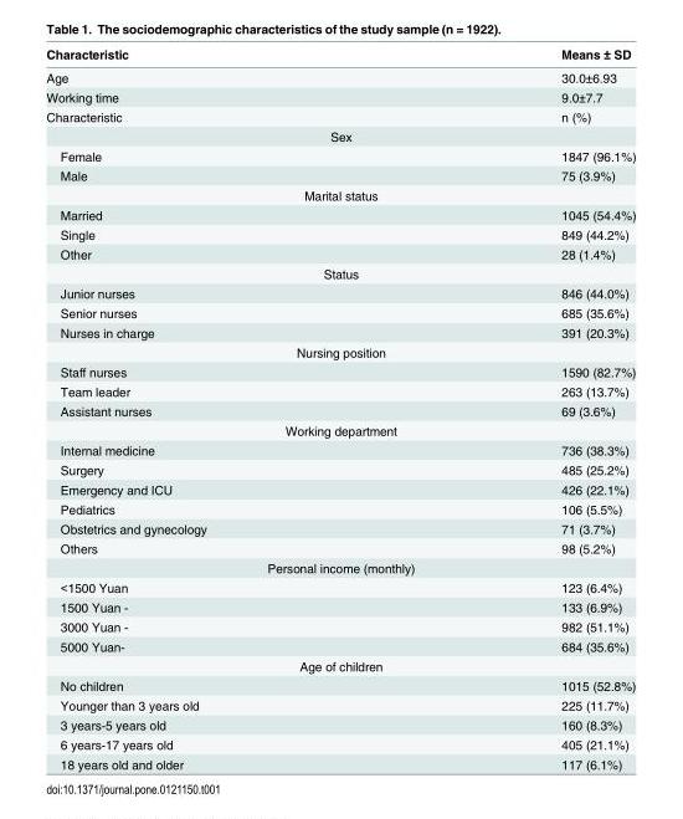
<table><thead><tr><td>Characteristic</td><td>Means ± SD</td></tr></thead><tbody><tr><td>Age</td><td>30.0±6.93</td></tr><tr><td>Working time</td><td>9.0±7.7</td></tr><tr><td>Characteristic</td><td>n (%)</td></tr><tr><td colspan="2">Sex</td></tr><tr><td>Female</td><td>1847 (96.1%)</td></tr><tr><td>Male</td><td>75 (3.9%)</td></tr><tr><td colspan="2">Marital status</td></tr><tr><td>Married</td><td>1045 (54.4%)</td></tr><tr><td>Single</td><td>849 (44.2%)</td></tr><tr><td>Other</td><td>28 (1.4%)</td></tr><tr><td colspan="2">Status</td></tr><tr><td>Junior nurses</td><td>846 (44.0%)</td></tr><tr><td>Senior nurses</td><td>685 (35.6%)</td></tr><tr><td>Nurses in charge</td><td>391 (20.3%)</td></tr><tr><td colspan="2">Nursing position</td></tr><tr><td>Staff nurses</td><td>1590 (82.7%)</td></tr><tr><td>Team leader</td><td>263 (13.7%)</td></tr><tr><td>Assistant nurses</td><td>69 (3.6%)</td></tr><tr><td colspan="2">Working department</td></tr><tr><td>Internal medicine</td><td>736 (38.3%)</td></tr><tr><td>Surgery</td><td>485 (25.2%)</td></tr><tr><td>Emergency and ICU</td><td>426 (22.1%)</td></tr><tr><td>Pediatrics</td><td>106 (5.5%)</td></tr><tr><td>Obstetrics and gynecology</td><td>71 (3.7%)</td></tr><tr><td>Others</td><td>98 (5.2%)</td></tr><tr><td colspan="2">Personal income (monthly)</td></tr><tr><td>&lt;1500 Yuan</td><td>123 (6.4%)</td></tr><tr><td>1500 Yuan -</td><td>133 (6.9%)</td></tr><tr><td>3000 Yuan -</td><td>982 (51.1%)</td></tr><tr><td>5000 Yuan-</td><td>684 (35.6%)</td></tr><tr><td colspan="2">Age of children</td></tr><tr><td>No children</td><td>1015 (52.8%)</td></tr><tr><td>Younger than 3 years old</td><td>225 (11.7%)</td></tr><tr><td>3 years-5 years old</td><td>160 (8.3%)</td></tr><tr><td>6 years-17 years old</td><td>405 (21.1%)</td></tr><tr><td>18 years old and older</td><td>117 (6.1%)</td></tr></tbody></table>